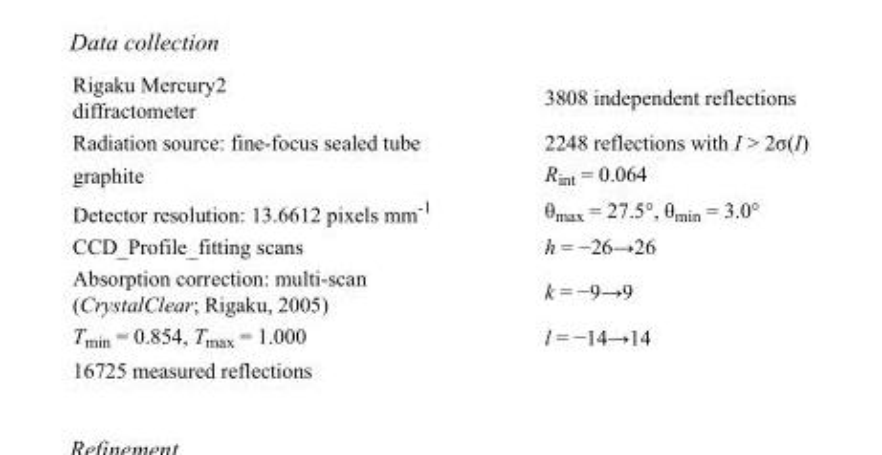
<table><tbody><tr><td>Rigaku Mercury2 diffractometer</td><td>3808 independent reflections</td></tr><tr><td>Radiation source: fine-focus sealed tube</td><td>2248 reflections with I &gt; 2σ(I)</td></tr><tr><td>graphite</td><td>R<sub>int</sub> = 0.064</td></tr><tr><td>Detector resolution: 13.6612 pixels mm<sup>-1</sup></td><td>θ<sub>max</sub> = 27.5°, θ<sub>min</sub> = 3.0°</td></tr><tr><td>CCD_Profile_fitting scans</td><td>h = −26→26</td></tr><tr><td>Absorption correction: multi-scan (CrystalClear; Rigaku, 2005)</td><td>k = −9→9</td></tr><tr><td>T<sub>min</sub> = 0.854, T<sub>max</sub> = 1.000</td><td>l = −14→14</td></tr><tr><td>16725 measured reflections</td><td></td></tr></tbody></table>